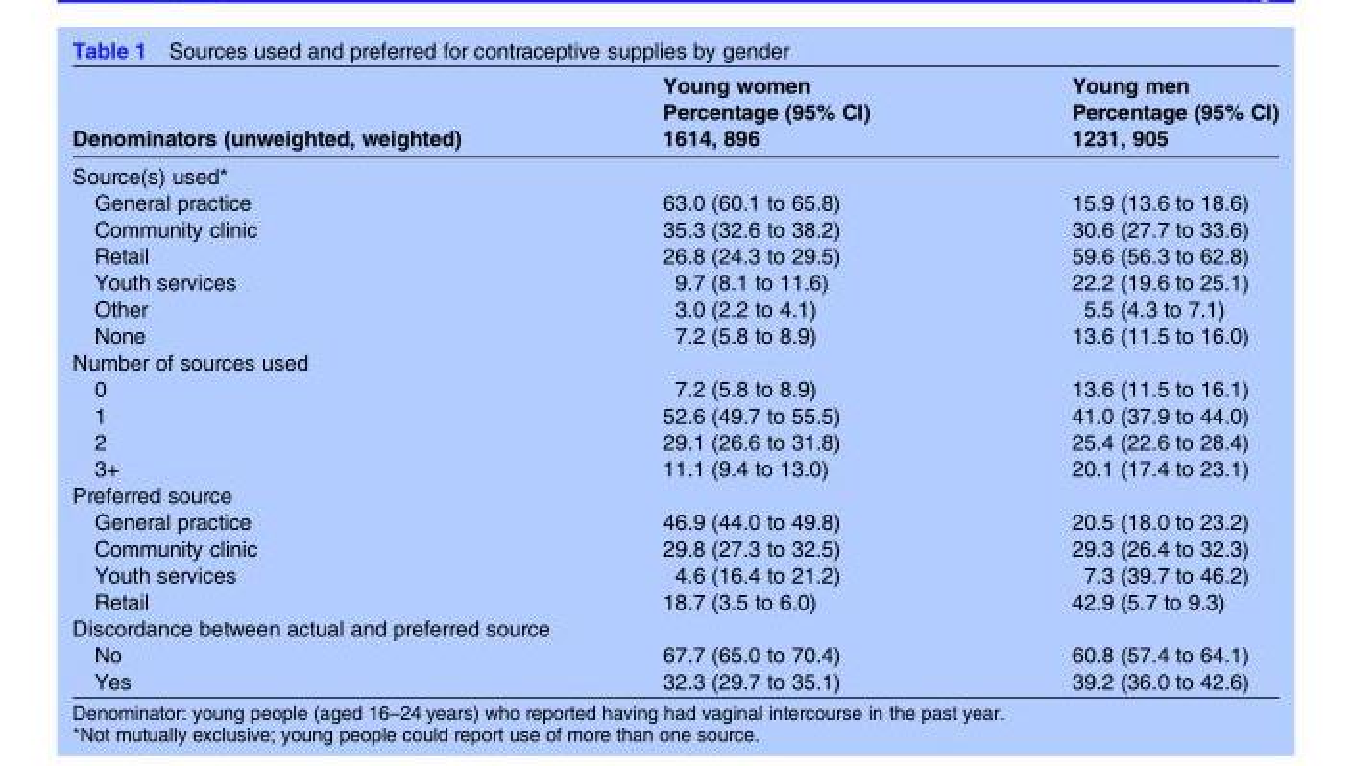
<table><thead><tr><td rowspan="3">Denominators (unweighted, weighted)</td><td rowspan="3">Young women Percentage (95% CI) 1614, 896</td><td rowspan="3">Young men Percentage (95% CI) 1231, 905</td></tr><tr></tr><tr></tr></thead><tbody><tr><td colspan="3">Source(s) used*</td></tr><tr><td>General practice</td><td>63.0 (60.1 to 65.8)</td><td>15.9 (13.6 to 18.6)</td></tr><tr><td>Community clinic</td><td>35.3 (32.6 to 38.2)</td><td>30.6 (27.7 to 33.6)</td></tr><tr><td>Retail</td><td>26.8 (24.3 to 29.5)</td><td>59.6 (56.3 to 62.8)</td></tr><tr><td>Youth services</td><td>9.7 (8.1 to 11.6)</td><td>22.2 (19.6 to 25.1)</td></tr><tr><td>Other</td><td>3.0 (2.2 to 4.1)</td><td>5.5 (4.3 to 7.1)</td></tr><tr><td>None</td><td>7.2 (5.8 to 8.9)</td><td>13.6 (11.5 to 16.0)</td></tr><tr><td colspan="3">Number of sources used</td></tr><tr><td>0</td><td>7.2 (5.8 to 8.9)</td><td>13.6 (11.5 to 16.1)</td></tr><tr><td>1</td><td>52.6 (49.7 to 55.5)</td><td>41.0 (37.9 to 44.0)</td></tr><tr><td>2</td><td>29.1 (26.6 to 31.8)</td><td>25.4 (22.6 to 28.4)</td></tr><tr><td>3+</td><td>11.1 (9.4 to 13.0)</td><td>20.1 (17.4 to 23.1)</td></tr><tr><td colspan="3">Preferred source</td></tr><tr><td>General practice</td><td>46.9 (44.0 to 49.8)</td><td>20.5 (18.0 to 23.2)</td></tr><tr><td>Community clinic</td><td>29.8 (27.3 to 32.5)</td><td>29.3 (26.4 to 32.3)</td></tr><tr><td>Youth services</td><td>4.6 (16.4 to 21.2)</td><td>7.3 (39.7 to 46.2)</td></tr><tr><td>Retail</td><td>18.7 (3.5 to 6.0)</td><td>42.9 (5.7 to 9.3)</td></tr><tr><td colspan="3">Discordance between actual and preferred source</td></tr><tr><td>No</td><td>67.7 (65.0 to 70.4)</td><td>60.8 (57.4 to 64.1)</td></tr><tr><td>Yes</td><td>32.3 (29.7 to 35.1)</td><td>39.2 (36.0 to 42.6)</td></tr></tbody></table>